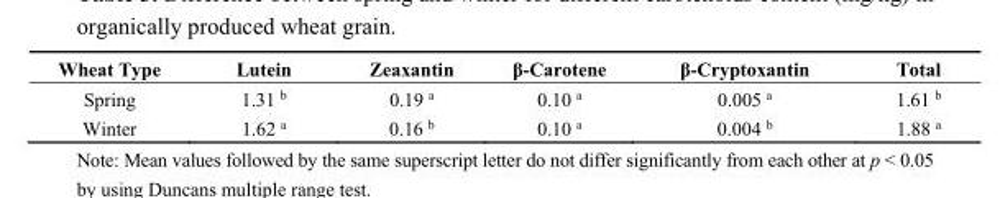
<table><thead><tr><td>Wheat Type</td><td>Lutein</td><td>Zeaxantin</td><td>β-Carotene</td><td>β-Cryptoxantin</td><td>Total</td></tr></thead><tbody><tr><td>Spring</td><td>1.31 <sup>b</sup></td><td>0.19 <sup>a</sup></td><td>0.10 <sup>a</sup></td><td>0.005 <sup>a</sup></td><td>1.61 <sup>b</sup></td></tr><tr><td>Winter</td><td>1.62 <sup>a</sup></td><td>0.16 <sup>b</sup></td><td>0.10 <sup>a</sup></td><td>0.004 <sup>b</sup></td><td>1.88 <sup>a</sup></td></tr></tbody></table>